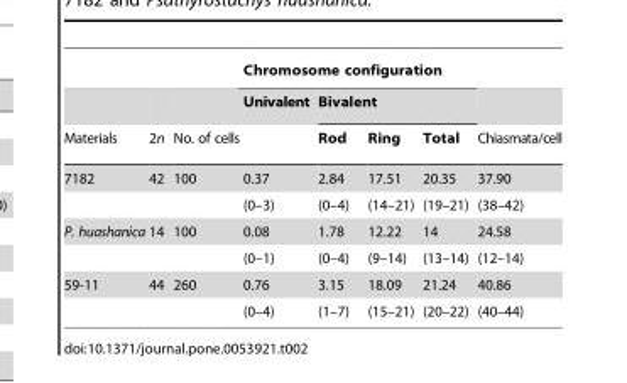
<table><thead><tr><td rowspan="3">Materials</td><td rowspan="3">2n</td><td rowspan="3">No. of cells</td><td colspan="4">Chromosome configuration</td><td rowspan="3">Chiasmata/cell</td></tr><tr><td rowspan="2">Univalent</td><td colspan="3">Bivalent</td></tr><tr><td>Rod</td><td>Ring</td><td>Total</td></tr></thead><tbody><tr><td rowspan="2">7182</td><td>42</td><td>100</td><td>0.37</td><td>2.84</td><td>17.51</td><td>20.35</td><td>37.90</td></tr><tr><td></td><td></td><td>(0–3)</td><td>(0–4)</td><td>(14–21)</td><td>(19–21)</td><td>(38–42)</td></tr><tr><td rowspan="2">P. huashanica</td><td>14</td><td>100</td><td>0.08</td><td>1.78</td><td>12.22</td><td>14</td><td>24.58</td></tr><tr><td></td><td></td><td>(0–1)</td><td>(0–4)</td><td>(9–14)</td><td>(13–14)</td><td>(12–14)</td></tr><tr><td rowspan="2">59-11</td><td>44</td><td>260</td><td>0.76</td><td>3.15</td><td>18.09</td><td>21.24</td><td>40.86</td></tr><tr><td></td><td></td><td>(0–4)</td><td>(1–7)</td><td>(15–21)</td><td>(20–22)</td><td>(40–44)</td></tr></tbody></table>